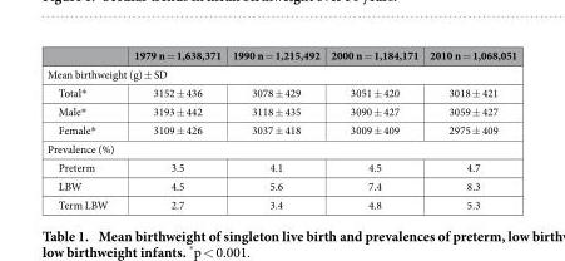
<table><thead><tr><td></td><td>1979 n = 1,638,371</td><td>1990 n = 1,215,492</td><td>2000 n = 1,184,171</td><td>2010 n = 1,068,051</td></tr></thead><tbody><tr><td colspan="5">Mean birthweight (g) ± SD</td></tr><tr><td>Total*</td><td>3152 ± 436</td><td>3078 ± 429</td><td>3051 ± 420</td><td>3018 ± 421</td></tr><tr><td>Male*</td><td>3193 ± 442</td><td>3118 ± 435</td><td>3090 ± 427</td><td>3059 ± 427</td></tr><tr><td>Female*</td><td>3109 ± 426</td><td>3037 ± 418</td><td>3009 ± 409</td><td>2975 ± 409</td></tr><tr><td colspan="5">Prevalence (%)</td></tr><tr><td>Preterm</td><td>3.5</td><td>4.1</td><td>4.5</td><td>4.7</td></tr><tr><td>LBW</td><td>4.5</td><td>5.6</td><td>7.4</td><td>8.3</td></tr><tr><td>Term LBW</td><td>2.7</td><td>3.4</td><td>4.8</td><td>5.3</td></tr></tbody></table>